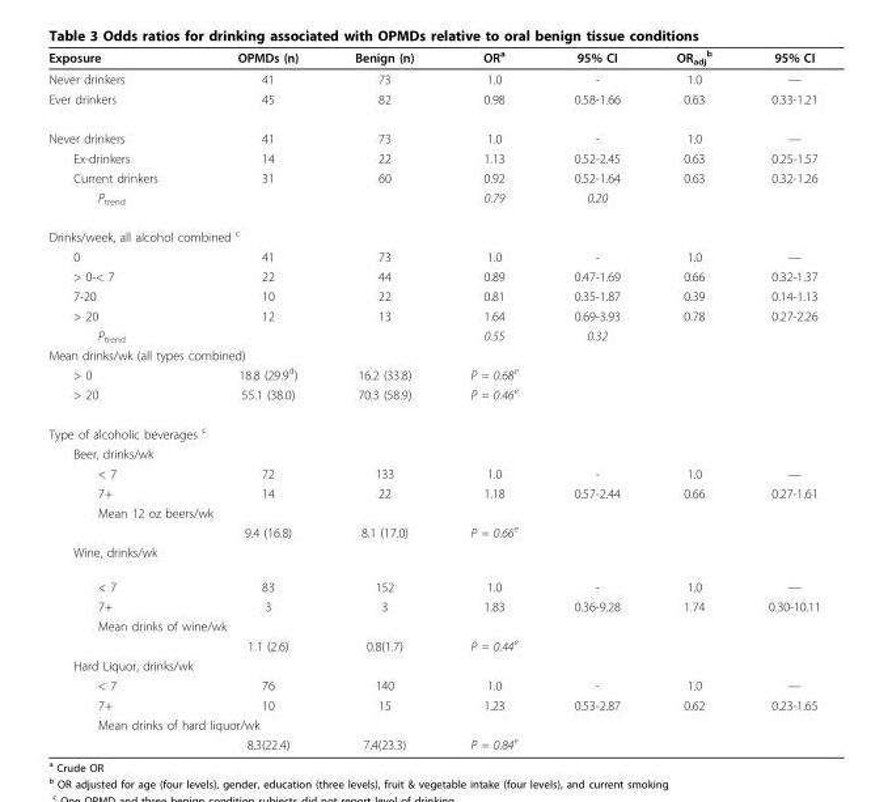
<table><thead><tr><td>Exposure</td><td>OPMDs (n)</td><td>Benign (n)</td><td>OR<sup>a</sup></td><td>95% CI</td><td>OR<sub>adj</sub> <sup>b</sup></td><td>95% CI</td></tr></thead><tbody><tr><td>Never drinkers</td><td>41</td><td>73</td><td>1.0</td><td>-</td><td>1.0</td><td>—</td></tr><tr><td>Ever drinkers</td><td>45</td><td>82</td><td>0.98</td><td>0.58-1.66</td><td>0.63</td><td>0.33-1.21</td></tr><tr><td>Never drinkers</td><td>41</td><td>73</td><td>1.0</td><td>-</td><td>1.0</td><td>—</td></tr><tr><td>Ex-drinkers</td><td>14</td><td>22</td><td>1.13</td><td>0.52-2.45</td><td>0.63</td><td>0.25-1.57</td></tr><tr><td>Current drinkers</td><td>31</td><td>60</td><td>0.92</td><td>0.52-1.64</td><td>0.63</td><td>0.32-1.26</td></tr><tr><td>P<sub>trend</sub></td><td></td><td></td><td>0.79</td><td>0.20</td><td></td><td></td></tr><tr><td colspan="7">Drinks/week, all alcohol combined <sup>c</sup></td></tr><tr><td>0</td><td>41</td><td>73</td><td>1.0</td><td>-</td><td>1.0</td><td>—</td></tr><tr><td>&gt; 0-&lt; 7</td><td>22</td><td>44</td><td>0.89</td><td>0.47-1.69</td><td>0.66</td><td>0.32-1.37</td></tr><tr><td>7-20</td><td>10</td><td>22</td><td>0.81</td><td>0.35-1.87</td><td>0.39</td><td>0.14-1.13</td></tr><tr><td>&gt; 20</td><td>12</td><td>13</td><td>1.64</td><td>0.69-3.93</td><td>0.78</td><td>0.27-2.26</td></tr><tr><td>P<sub>trend</sub></td><td></td><td></td><td>0.55</td><td>0.32</td><td></td><td></td></tr><tr><td colspan="7">Mean drinks/wk (all types combined)</td></tr><tr><td>&gt; 0</td><td>18.8 (29.9<sup>d</sup>)</td><td>16.2 (33.8)</td><td>P = 0.68<sup>e</sup></td><td></td><td></td><td></td></tr><tr><td>&gt; 20</td><td>55.1 (38.0)</td><td>70.3 (58.9)</td><td>P = 0.46<sup>e</sup></td><td></td><td></td><td></td></tr><tr><td colspan="7">Type of alcoholic beverages <sup>c</sup></td></tr><tr><td colspan="7">Beer, drinks/wk</td></tr><tr><td>&lt; 7</td><td>72</td><td>133</td><td>1.0</td><td>-</td><td>1.0</td><td>—</td></tr><tr><td>7+</td><td>14</td><td>22</td><td>1.18</td><td>0.57-2.44</td><td>0.66</td><td>0.27-1.61</td></tr><tr><td colspan="7">Mean 12 oz beers/wk</td></tr><tr><td></td><td>9.4 (16.8)</td><td>8.1 (17.0)</td><td>P = 0.66<sup>e</sup></td><td></td><td></td><td></td></tr><tr><td colspan="7">Wine, drinks/wk</td></tr><tr><td>&lt; 7</td><td>83</td><td>152</td><td>1.0</td><td>-</td><td>1.0</td><td>—</td></tr><tr><td>7+</td><td>3</td><td>3</td><td>1.83</td><td>0.36-9.28</td><td>1.74</td><td>0.30-10.11</td></tr><tr><td colspan="7">Mean drinks of wine/wk</td></tr><tr><td></td><td>1.1 (2.6)</td><td>0.8(1.7)</td><td>P = 0.44<sup>e</sup></td><td></td><td></td><td></td></tr><tr><td colspan="7">Hard Liquor, drinks/wk</td></tr><tr><td>&lt; 7</td><td>76</td><td>140</td><td>1.0</td><td>-</td><td>1.0</td><td>—</td></tr><tr><td>7+</td><td>10</td><td>15</td><td>1.23</td><td>0.53-2.87</td><td>0.62</td><td>0.23-1.65</td></tr><tr><td colspan="7">Mean drinks of hard liquor/wk</td></tr><tr><td></td><td>8.3(22.4)</td><td>7.4(23.3)</td><td>P = 0.84<sup>e</sup></td><td></td><td></td><td></td></tr></tbody></table>